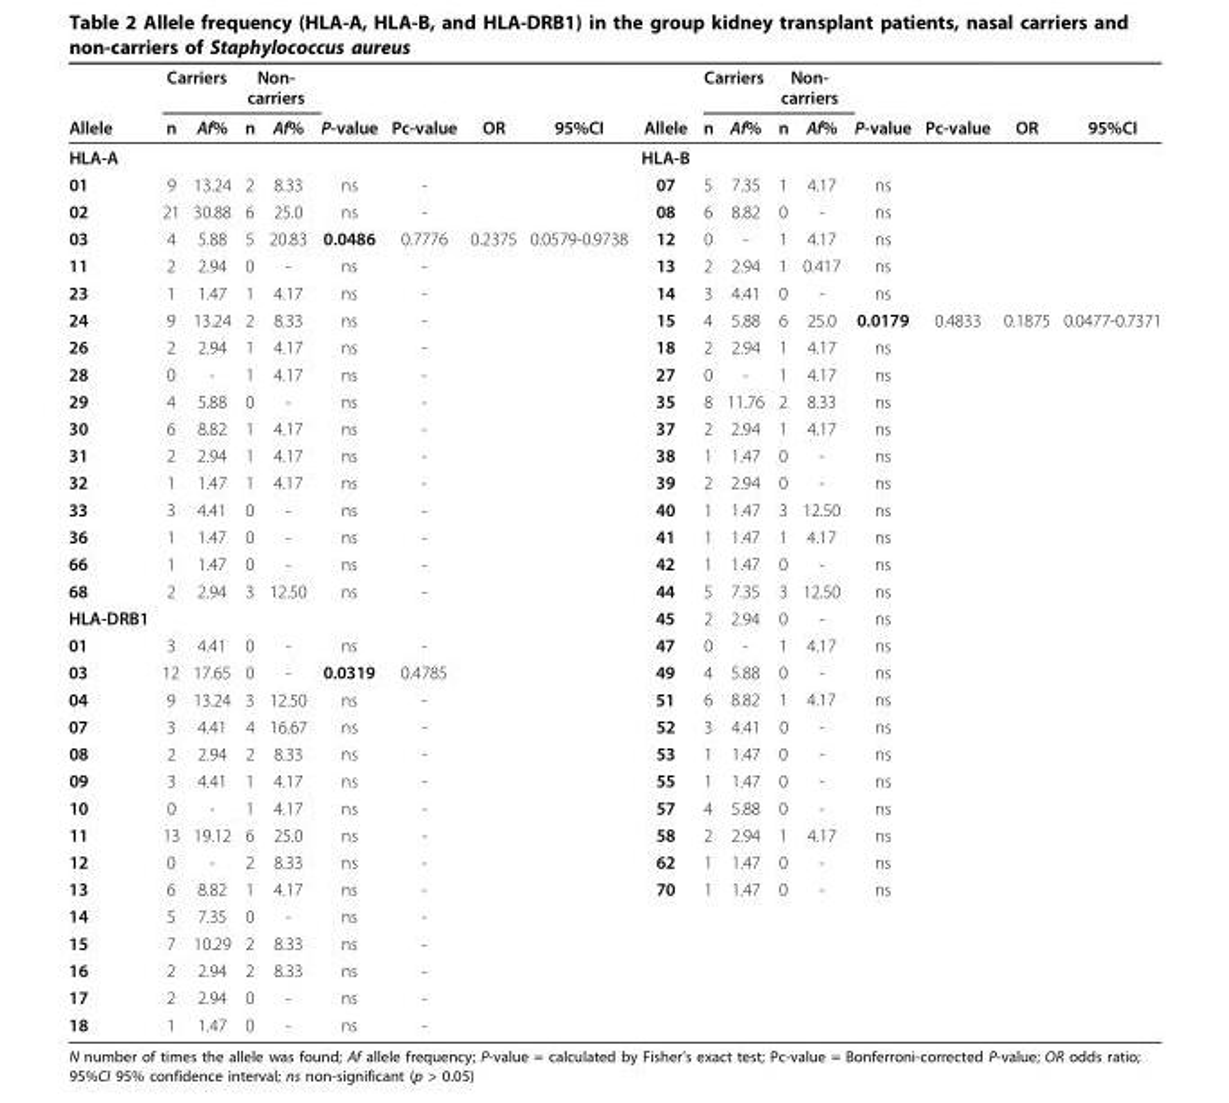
<table><thead><tr><td rowspan="2">Allele</td><td colspan="2">Carriers</td><td colspan="2">Non- carriers</td><td rowspan="2">P-value</td><td rowspan="2">Pc-value</td><td rowspan="2">OR</td><td rowspan="2">95%CI</td><td rowspan="2">Allele</td><td colspan="2">Carriers</td><td colspan="2">Non- carriers</td><td rowspan="2">P-value</td><td rowspan="2">Pc-value</td><td rowspan="2">OR</td><td rowspan="2">95%CI</td></tr><tr><td>n</td><td>Af%</td><td>n</td><td>Af%</td><td>n</td><td>Af%</td><td>n</td><td>Af%</td></tr></thead><tbody><tr><td>HLA-A</td><td></td><td></td><td></td><td></td><td></td><td></td><td></td><td></td><td>HLA-B</td><td></td><td></td><td></td><td></td><td></td><td></td><td></td><td></td></tr><tr><td>01</td><td>9</td><td>13.24</td><td>2</td><td>8.33</td><td>ns</td><td>-</td><td></td><td></td><td>07</td><td>5</td><td>7.35</td><td>1</td><td>4.17</td><td>ns</td><td></td><td></td><td></td></tr><tr><td>02</td><td>21</td><td>30.88</td><td>6</td><td>25.0</td><td>ns</td><td>-</td><td></td><td></td><td>08</td><td>6</td><td>8.82</td><td>0</td><td>-</td><td>ns</td><td></td><td></td><td></td></tr><tr><td>03</td><td>4</td><td>5.88</td><td>5</td><td>20.83</td><td>0.0486</td><td>0.7776</td><td>0.2375</td><td>0.0579-0.9738</td><td>12</td><td>0</td><td>-</td><td>1</td><td>4.17</td><td>ns</td><td></td><td></td><td></td></tr><tr><td>11</td><td>2</td><td>2.94</td><td>0</td><td>-</td><td>ns</td><td>-</td><td></td><td></td><td>13</td><td>2</td><td>2.94</td><td>1</td><td>0.417</td><td>ns</td><td></td><td></td><td></td></tr><tr><td>23</td><td>1</td><td>1.47</td><td>1</td><td>4.17</td><td>ns</td><td>-</td><td></td><td></td><td>14</td><td>3</td><td>4.41</td><td>0</td><td>-</td><td>ns</td><td></td><td></td><td></td></tr><tr><td>24</td><td>9</td><td>13.24</td><td>2</td><td>8.33</td><td>ns</td><td>-</td><td></td><td></td><td>15</td><td>4</td><td>5.88</td><td>6</td><td>25.0</td><td>0.0179</td><td>0.4833</td><td>0.1875</td><td>0.0477-0.7371</td></tr><tr><td>26</td><td>2</td><td>2.94</td><td>1</td><td>4.17</td><td>ns</td><td>-</td><td></td><td></td><td>18</td><td>2</td><td>2.94</td><td>1</td><td>4.17</td><td>ns</td><td></td><td></td><td></td></tr><tr><td>28</td><td>0</td><td>-</td><td>1</td><td>4.17</td><td>ns</td><td>-</td><td></td><td></td><td>27</td><td>0</td><td>-</td><td>1</td><td>4.17</td><td>ns</td><td></td><td></td><td></td></tr><tr><td>29</td><td>4</td><td>5.88</td><td>0</td><td>-</td><td>ns</td><td>-</td><td></td><td></td><td>35</td><td>8</td><td>11.76</td><td>2</td><td>8.33</td><td>ns</td><td></td><td></td><td></td></tr><tr><td>30</td><td>6</td><td>8.82</td><td>1</td><td>4.17</td><td>ns</td><td>-</td><td></td><td></td><td>37</td><td>2</td><td>2.94</td><td>1</td><td>4.17</td><td>ns</td><td></td><td></td><td></td></tr><tr><td>31</td><td>2</td><td>2.94</td><td>1</td><td>4.17</td><td>ns</td><td>-</td><td></td><td></td><td>38</td><td>1</td><td>1.47</td><td>0</td><td>-</td><td>ns</td><td></td><td></td><td></td></tr><tr><td>32</td><td>1</td><td>1.47</td><td>1</td><td>4.17</td><td>ns</td><td>-</td><td></td><td></td><td>39</td><td>2</td><td>2.94</td><td>0</td><td>-</td><td>ns</td><td></td><td></td><td></td></tr><tr><td>33</td><td>3</td><td>4.41</td><td>0</td><td>-</td><td>ns</td><td>-</td><td></td><td></td><td>40</td><td>1</td><td>1.47</td><td>3</td><td>12.50</td><td>ns</td><td></td><td></td><td></td></tr><tr><td>36</td><td>1</td><td>1.47</td><td>0</td><td>-</td><td>ns</td><td>-</td><td></td><td></td><td>41</td><td>1</td><td>1.47</td><td>1</td><td>4.17</td><td>ns</td><td></td><td></td><td></td></tr><tr><td>66</td><td>1</td><td>1.47</td><td>0</td><td>-</td><td>ns</td><td>-</td><td></td><td></td><td>42</td><td>1</td><td>1.47</td><td>0</td><td>-</td><td>ns</td><td></td><td></td><td></td></tr><tr><td>68</td><td>2</td><td>2.94</td><td>3</td><td>12.50</td><td>ns</td><td>-</td><td></td><td></td><td>44</td><td>5</td><td>7.35</td><td>3</td><td>12.50</td><td>ns</td><td></td><td></td><td></td></tr><tr><td>HLA-DRB1</td><td></td><td></td><td></td><td></td><td></td><td></td><td></td><td></td><td>45</td><td>2</td><td>2.94</td><td>0</td><td>-</td><td>ns</td><td></td><td></td><td></td></tr><tr><td>01</td><td>3</td><td>4.41</td><td>0</td><td>-</td><td>ns</td><td>-</td><td></td><td></td><td>47</td><td>0</td><td>-</td><td>1</td><td>4.17</td><td>ns</td><td></td><td></td><td></td></tr><tr><td>03</td><td>12</td><td>17.65</td><td>0</td><td>-</td><td>0.0319</td><td>0.4785</td><td></td><td></td><td>49</td><td>4</td><td>5.88</td><td>0</td><td>-</td><td>ns</td><td></td><td></td><td></td></tr><tr><td>04</td><td>9</td><td>13.24</td><td>3</td><td>12.50</td><td>ns</td><td>-</td><td></td><td></td><td>51</td><td>6</td><td>8.82</td><td>1</td><td>4.17</td><td>ns</td><td></td><td></td><td></td></tr><tr><td>07</td><td>3</td><td>4.41</td><td>4</td><td>16.67</td><td>ns</td><td>-</td><td></td><td></td><td>52</td><td>3</td><td>4.41</td><td>0</td><td>-</td><td>ns</td><td></td><td></td><td></td></tr><tr><td>08</td><td>2</td><td>2.94</td><td>2</td><td>8.33</td><td>ns</td><td>-</td><td></td><td></td><td>53</td><td>1</td><td>1.47</td><td>0</td><td>-</td><td>ns</td><td></td><td></td><td></td></tr><tr><td>09</td><td>3</td><td>4.41</td><td>1</td><td>4.17</td><td>ns</td><td>-</td><td></td><td></td><td>55</td><td>1</td><td>1.47</td><td>0</td><td>-</td><td>ns</td><td></td><td></td><td></td></tr><tr><td>10</td><td>0</td><td>-</td><td>1</td><td>4.17</td><td>ns</td><td>-</td><td></td><td></td><td>57</td><td>4</td><td>5.88</td><td>0</td><td>-</td><td>ns</td><td></td><td></td><td></td></tr><tr><td>11</td><td>13</td><td>19.12</td><td>6</td><td>25.0</td><td>ns</td><td>-</td><td></td><td></td><td>58</td><td>2</td><td>2.94</td><td>1</td><td>4.17</td><td>ns</td><td></td><td></td><td></td></tr><tr><td>12</td><td>0</td><td>-</td><td>2</td><td>8.33</td><td>ns</td><td>-</td><td></td><td></td><td>62</td><td>1</td><td>1.47</td><td>0</td><td>-</td><td>ns</td><td></td><td></td><td></td></tr><tr><td>13</td><td>6</td><td>8.82</td><td>1</td><td>4.17</td><td>ns</td><td>-</td><td></td><td></td><td>70</td><td>1</td><td>1.47</td><td>0</td><td>-</td><td>ns</td><td></td><td></td><td></td></tr><tr><td>14</td><td>5</td><td>7.35</td><td>0</td><td>-</td><td>ns</td><td>-</td><td></td><td></td><td></td><td></td><td></td><td></td><td></td><td></td><td></td><td></td><td></td></tr><tr><td>15</td><td>7</td><td>10.29</td><td>2</td><td>8.33</td><td>ns</td><td>-</td><td></td><td></td><td></td><td></td><td></td><td></td><td></td><td></td><td></td><td></td><td></td></tr><tr><td>16</td><td>2</td><td>2.94</td><td>2</td><td>8.33</td><td>ns</td><td>-</td><td></td><td></td><td></td><td></td><td></td><td></td><td></td><td></td><td></td><td></td><td></td></tr><tr><td>17</td><td>2</td><td>2.94</td><td>0</td><td>-</td><td>ns</td><td>-</td><td></td><td></td><td></td><td></td><td></td><td></td><td></td><td></td><td></td><td></td><td></td></tr><tr><td>18</td><td>1</td><td>1.47</td><td>0</td><td>-</td><td>ns</td><td>-</td><td></td><td></td><td></td><td></td><td></td><td></td><td></td><td></td><td></td><td></td><td></td></tr></tbody></table>